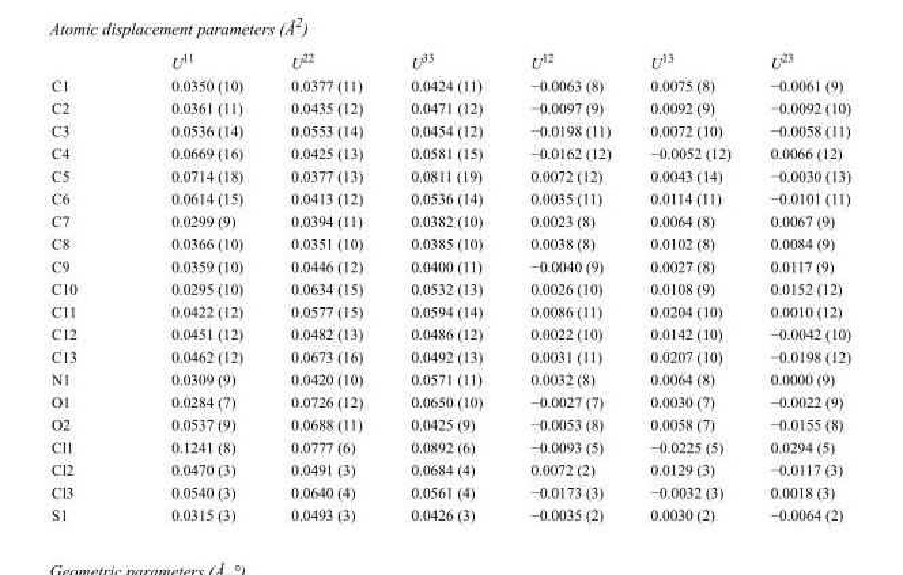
<table><thead><tr><td></td><td>U<sup>11</sup></td><td>U<sup>22</sup></td><td>U<sup>33</sup></td><td>U<sup>12</sup></td><td>U<sup>13</sup></td><td>U<sup>23</sup></td></tr></thead><tbody><tr><td>C1</td><td>0.0350 (10)</td><td>0.0377 (11)</td><td>0.0424 (11)</td><td>−0.0063 (8)</td><td>0.0075 (8)</td><td>−0.0061 (9)</td></tr><tr><td>C2</td><td>0.0361 (11)</td><td>0.0435 (12)</td><td>0.0471 (12)</td><td>−0.0097 (9)</td><td>0.0092 (9)</td><td>−0.0092 (10)</td></tr><tr><td>C3</td><td>0.0536 (14)</td><td>0.0553 (14)</td><td>0.0454 (12)</td><td>−0.0198 (11)</td><td>0.0072 (10)</td><td>−0.0058 (11)</td></tr><tr><td>C4</td><td>0.0669 (16)</td><td>0.0425 (13)</td><td>0.0581 (15)</td><td>−0.0162 (12)</td><td>−0.0052 (12)</td><td>0.0066 (12)</td></tr><tr><td>C5</td><td>0.0714 (18)</td><td>0.0377 (13)</td><td>0.0811 (19)</td><td>0.0072 (12)</td><td>0.0043 (14)</td><td>−0.0030 (13)</td></tr><tr><td>C6</td><td>0.0614 (15)</td><td>0.0413 (12)</td><td>0.0536 (14)</td><td>0.0035 (11)</td><td>0.0114 (11)</td><td>−0.0101 (11)</td></tr><tr><td>C7</td><td>0.0299 (9)</td><td>0.0394 (11)</td><td>0.0382 (10)</td><td>0.0023 (8)</td><td>0.0064 (8)</td><td>0.0067 (9)</td></tr><tr><td>C8</td><td>0.0366 (10)</td><td>0.0351 (10)</td><td>0.0385 (10)</td><td>0.0038 (8)</td><td>0.0102 (8)</td><td>0.0084 (9)</td></tr><tr><td>C9</td><td>0.0359 (10)</td><td>0.0446 (12)</td><td>0.0400 (11)</td><td>−0.0040 (9)</td><td>0.0027 (8)</td><td>0.0117 (9)</td></tr><tr><td>C10</td><td>0.0295 (10)</td><td>0.0634 (15)</td><td>0.0532 (13)</td><td>0.0026 (10)</td><td>0.0108 (9)</td><td>0.0152 (12)</td></tr><tr><td>C11</td><td>0.0422 (12)</td><td>0.0577 (15)</td><td>0.0594 (14)</td><td>0.0086 (11)</td><td>0.0204 (10)</td><td>0.0010 (12)</td></tr><tr><td>C12</td><td>0.0451 (12)</td><td>0.0482 (13)</td><td>0.0486 (12)</td><td>0.0022 (10)</td><td>0.0142 (10)</td><td>−0.0042 (10)</td></tr><tr><td>C13</td><td>0.0462 (12)</td><td>0.0673 (16)</td><td>0.0492 (13)</td><td>0.0031 (11)</td><td>0.0207 (10)</td><td>−0.0198 (12)</td></tr><tr><td>N1</td><td>0.0309 (9)</td><td>0.0420 (10)</td><td>0.0571 (11)</td><td>0.0032 (8)</td><td>0.0064 (8)</td><td>0.0000 (9)</td></tr><tr><td>O1</td><td>0.0284 (7)</td><td>0.0726 (12)</td><td>0.0650 (10)</td><td>−0.0027 (7)</td><td>0.0030 (7)</td><td>−0.0022 (9)</td></tr><tr><td>O2</td><td>0.0537 (9)</td><td>0.0688 (11)</td><td>0.0425 (9)</td><td>−0.0053 (8)</td><td>0.0058 (7)</td><td>−0.0155 (8)</td></tr><tr><td>Cl1</td><td>0.1241 (8)</td><td>0.0777 (6)</td><td>0.0892 (6)</td><td>−0.0093 (5)</td><td>−0.0225 (5)</td><td>0.0294 (5)</td></tr><tr><td>Cl2</td><td>0.0470 (3)</td><td>0.0491 (3)</td><td>0.0684 (4)</td><td>0.0072 (2)</td><td>0.0129 (3)</td><td>−0.0117 (3)</td></tr><tr><td>Cl3</td><td>0.0540 (3)</td><td>0.0640 (4)</td><td>0.0561 (4)</td><td>−0.0173 (3)</td><td>−0.0032 (3)</td><td>0.0018 (3)</td></tr><tr><td>S1</td><td>0.0315 (3)</td><td>0.0493 (3)</td><td>0.0426 (3)</td><td>−0.0035 (2)</td><td>0.0030 (2)</td><td>−0.0064 (2)</td></tr></tbody></table>